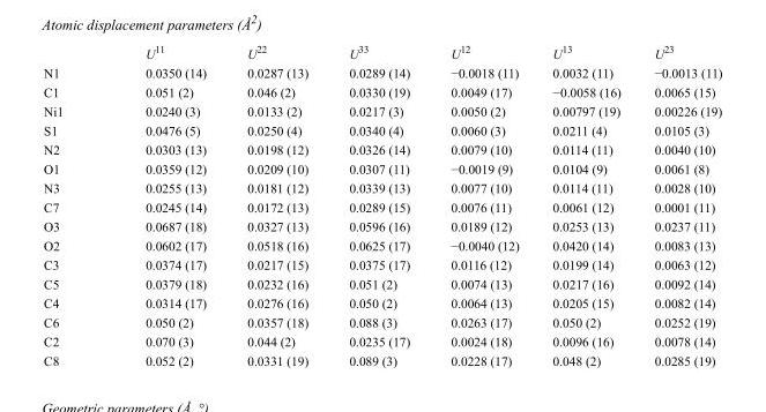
<table><thead><tr><td></td><td>U<sup>11</sup></td><td>U<sup>22</sup></td><td>U<sup>33</sup></td><td>U<sup>12</sup></td><td>U<sup>13</sup></td><td>U<sup>23</sup></td></tr></thead><tbody><tr><td>N1</td><td>0.0350 (14)</td><td>0.0287 (13)</td><td>0.0289 (14)</td><td>−0.0018 (11)</td><td>0.0032 (11)</td><td>−0.0013 (11)</td></tr><tr><td>C1</td><td>0.051 (2)</td><td>0.046 (2)</td><td>0.0330 (19)</td><td>0.0049 (17)</td><td>−0.0058 (16)</td><td>0.0065 (15)</td></tr><tr><td>Ni1</td><td>0.0240 (3)</td><td>0.0133 (2)</td><td>0.0217 (3)</td><td>0.0050 (2)</td><td>0.00797 (19)</td><td>0.00226 (19)</td></tr><tr><td>S1</td><td>0.0476 (5)</td><td>0.0250 (4)</td><td>0.0340 (4)</td><td>0.0060 (3)</td><td>0.0211 (4)</td><td>0.0105 (3)</td></tr><tr><td>N2</td><td>0.0303 (13)</td><td>0.0198 (12)</td><td>0.0326 (14)</td><td>0.0079 (10)</td><td>0.0114 (11)</td><td>0.0040 (10)</td></tr><tr><td>O1</td><td>0.0359 (12)</td><td>0.0209 (10)</td><td>0.0307 (11)</td><td>−0.0019 (9)</td><td>0.0104 (9)</td><td>0.0061 (8)</td></tr><tr><td>N3</td><td>0.0255 (13)</td><td>0.0181 (12)</td><td>0.0339 (13)</td><td>0.0077 (10)</td><td>0.0114 (11)</td><td>0.0028 (10)</td></tr><tr><td>C7</td><td>0.0245 (14)</td><td>0.0172 (13)</td><td>0.0289 (15)</td><td>0.0076 (11)</td><td>0.0061 (12)</td><td>0.0001 (11)</td></tr><tr><td>O3</td><td>0.0687 (18)</td><td>0.0327 (13)</td><td>0.0596 (16)</td><td>0.0189 (12)</td><td>0.0253 (13)</td><td>0.0237 (11)</td></tr><tr><td>O2</td><td>0.0602 (17)</td><td>0.0518 (16)</td><td>0.0625 (17)</td><td>−0.0040 (12)</td><td>0.0420 (14)</td><td>0.0083 (13)</td></tr><tr><td>C3</td><td>0.0374 (17)</td><td>0.0217 (15)</td><td>0.0375 (17)</td><td>0.0116 (12)</td><td>0.0199 (14)</td><td>0.0063 (12)</td></tr><tr><td>C5</td><td>0.0379 (18)</td><td>0.0232 (16)</td><td>0.051 (2)</td><td>0.0074 (13)</td><td>0.0217 (16)</td><td>0.0092 (14)</td></tr><tr><td>C4</td><td>0.0314 (17)</td><td>0.0276 (16)</td><td>0.050 (2)</td><td>0.0064 (13)</td><td>0.0205 (15)</td><td>0.0082 (14)</td></tr><tr><td>C6</td><td>0.050 (2)</td><td>0.0357 (18)</td><td>0.088 (3)</td><td>0.0263 (17)</td><td>0.050 (2)</td><td>0.0252 (19)</td></tr><tr><td>C2</td><td>0.070 (3)</td><td>0.044 (2)</td><td>0.0235 (17)</td><td>0.0024 (18)</td><td>0.0096 (16)</td><td>0.0078 (14)</td></tr><tr><td>C8</td><td>0.052 (2)</td><td>0.0331 (19)</td><td>0.089 (3)</td><td>0.0228 (17)</td><td>0.048 (2)</td><td>0.0285 (19)</td></tr></tbody></table>